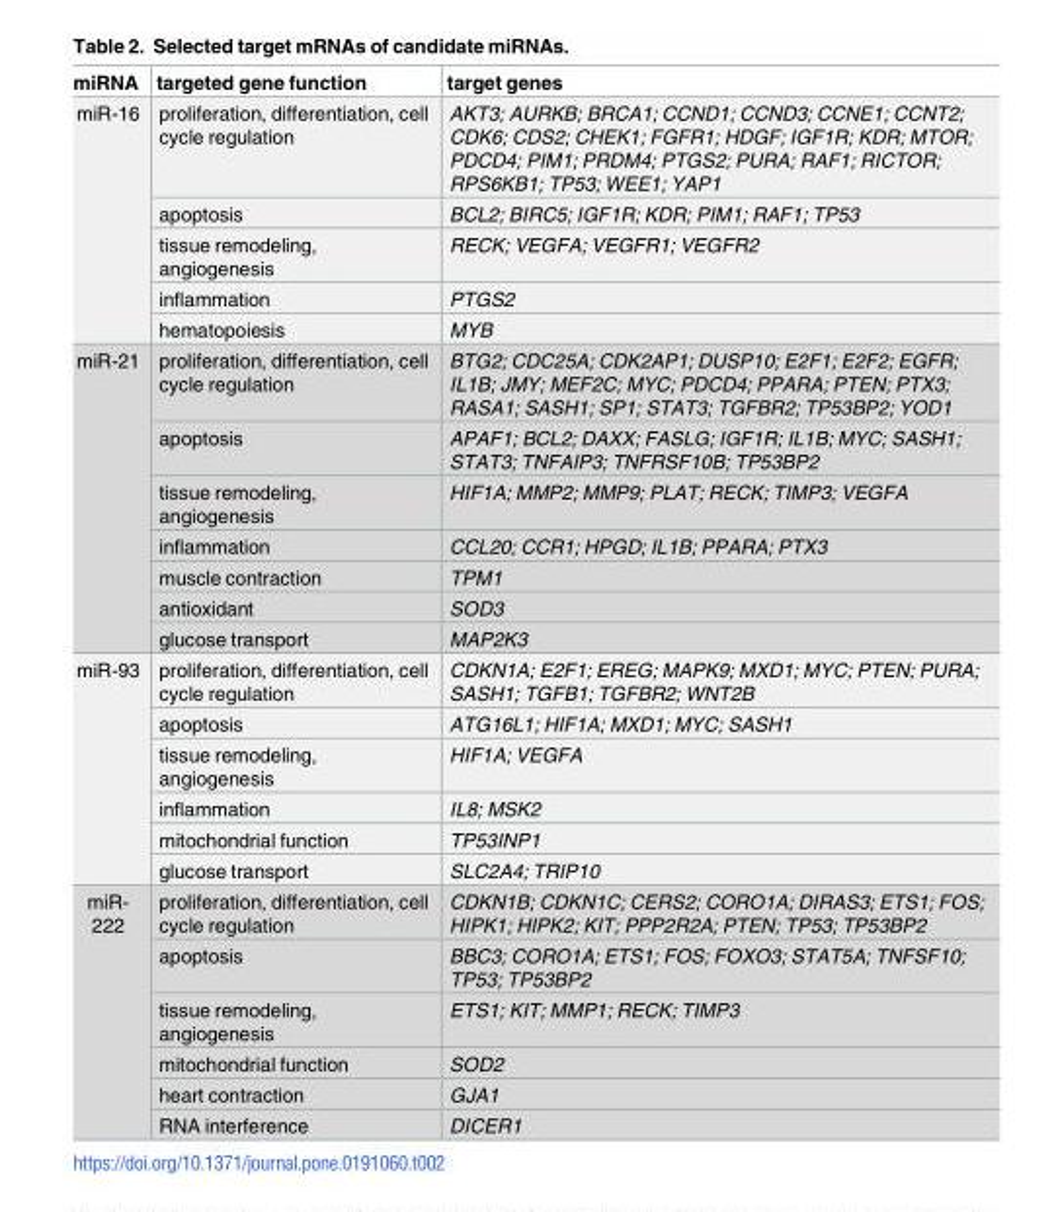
<table><thead><tr><td>miRNA</td><td>targeted gene function</td><td>target genes</td></tr></thead><tbody><tr><td rowspan="5">miR-16</td><td>proliferation, differentiation, cell cycle regulation</td><td>AKT3; AURKB; BRCA1; CCND1; CCND3; CCNE1; CCNT2; CDK6; CDS2; CHEK1; FGFR1; HDGF; IGF1R; KDR; MTOR; PDCD4; PIM1; PRDM4; PTGS2; PURA; RAF1; RICTOR; RPS6KB1; TP53; WEE1; YAP1</td></tr><tr><td>apoptosis</td><td>BCL2; BIRC5; IGF1R; KDR; PIM1; RAF1; TP53</td></tr><tr><td>tissue remodeling, angiogenesis</td><td>RECK; VEGFA; VEGFR1; VEGFR2</td></tr><tr><td>inflammation</td><td>PTGS2</td></tr><tr><td>hematopoiesis</td><td>MYB</td></tr><tr><td rowspan="7">miR-21</td><td>proliferation, differentiation, cell cycle regulation</td><td>BTG2; CDC25A; CDK2AP1; DUSP10; E2F1; E2F2; EGFR; IL1B; JMY; MEF2C; MYC; PDCD4; PPARA; PTEN; PTX3; RASA1; SASH1; SP1; STAT3; TGFBR2; TP53BP2; YOD1</td></tr><tr><td>apoptosis</td><td>APAF1; BCL2; DAXX; FASLG; IGF1R; IL1B; MYC; SASH1; STAT3; TNFAIP3; TNFRSF10B; TP53BP2</td></tr><tr><td>tissue remodeling, angiogenesis</td><td>HIF1A; MMP2; MMP9; PLAT; RECK; TIMP3; VEGFA</td></tr><tr><td>inflammation</td><td>CCL20; CCR1; HPGD; IL1B; PPARA; PTX3</td></tr><tr><td>muscle contraction</td><td>TPM1</td></tr><tr><td>antioxidant</td><td>SOD3</td></tr><tr><td>glucose transport</td><td>MAP2K3</td></tr><tr><td rowspan="6">miR-93</td><td>proliferation, differentiation, cell cycle regulation</td><td>CDKN1A; E2F1; EREG; MAPK9; MXD1; MYC; PTEN; PURA; SASH1; TGFB1; TGFBR2; WNT2B</td></tr><tr><td>apoptosis</td><td>ATG16L1; HIF1A; MXD1; MYC; SASH1</td></tr><tr><td>tissue remodeling, angiogenesis</td><td>HIF1A; VEGFA</td></tr><tr><td>inflammation</td><td>IL8; MSK2</td></tr><tr><td>mitochondrial function</td><td>TP53INP1</td></tr><tr><td>glucose transport</td><td>SLC2A4; TRIP10</td></tr><tr><td rowspan="6">miR- 222</td><td>proliferation, differentiation, cell cycle regulation</td><td>CDKN1B; CDKN1C; CERS2; CORO1A; DIRAS3; ETS1; FOS; HIPK1; HIPK2; KIT; PPP2R2A; PTEN; TP53; TP53BP2</td></tr><tr><td>apoptosis</td><td>BBC3; CORO1A; ETS1; FOS; FOXO3; STAT5A; TNFSF10; TP53; TP53BP2</td></tr><tr><td>tissue remodeling, angiogenesis</td><td>ETS1; KIT; MMP1; RECK; TIMP3</td></tr><tr><td>mitochondrial function</td><td>SOD2</td></tr><tr><td>heart contraction</td><td>GJA1</td></tr><tr><td>RNA interference</td><td>DICER1</td></tr></tbody></table>